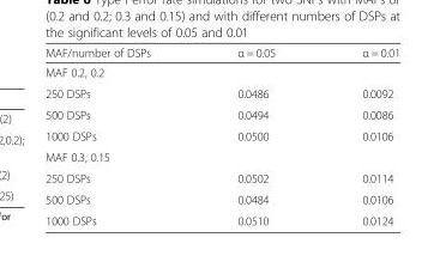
<table><thead><tr><td>MAF/number of DSPs</td><td>α = 0.05</td><td>α = 0.01</td></tr></thead><tbody><tr><td colspan="3">MAF 0.2, 0.2</td></tr><tr><td>250 DSPs</td><td>0.0486</td><td>0.0092</td></tr><tr><td>500 DSPs</td><td>0.0494</td><td>0.0086</td></tr><tr><td>1000 DSPs</td><td>0.0500</td><td>0.0106</td></tr><tr><td colspan="3">MAF 0.3, 0.15</td></tr><tr><td>250 DSPs</td><td>0.0502</td><td>0.0114</td></tr><tr><td>500 DSPs</td><td>0.0484</td><td>0.0106</td></tr><tr><td>1000 DSPs</td><td>0.0510</td><td>0.0124</td></tr></tbody></table>